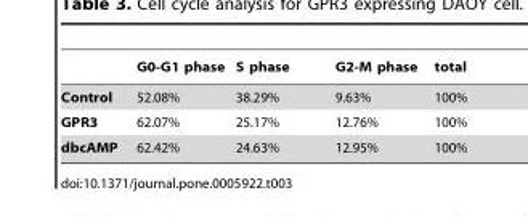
<table><thead><tr><td></td><td>G0-G1 phase</td><td>S phase</td><td>G2-M phase</td><td>total</td></tr></thead><tbody><tr><td>Control</td><td>52.08%</td><td>38.29%</td><td>9.63%</td><td>100%</td></tr><tr><td>GPR3</td><td>62.07%</td><td>25.17%</td><td>12.76%</td><td>100%</td></tr><tr><td>dbcAMP</td><td>62.42%</td><td>24.63%</td><td>12.95%</td><td>100%</td></tr></tbody></table>